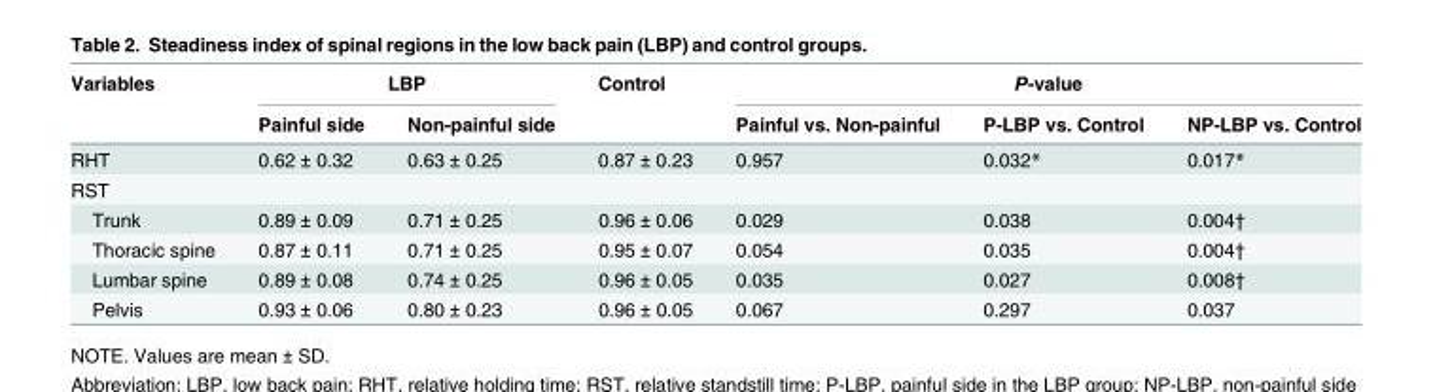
<table><thead><tr><td rowspan="2">Variables</td><td colspan="2">LBP</td><td rowspan="2">Control</td><td colspan="3">P-value</td></tr><tr><td>Painful side</td><td>Non-painful side</td><td>Painful vs. Non-painful</td><td>P-LBP vs. Control</td><td>NP-LBP vs. Control</td></tr></thead><tbody><tr><td>RHT</td><td>0.62 ± 0.32</td><td>0.63 ± 0.25</td><td>0.87 ± 0.23</td><td>0.957</td><td>0.032*</td><td>0.017*</td></tr><tr><td colspan="7">RST</td></tr><tr><td>Trunk</td><td>0.89 ± 0.09</td><td>0.71 ± 0.25</td><td>0.96 ± 0.06</td><td>0.029</td><td>0.038</td><td>0.004†</td></tr><tr><td>Thoracic spine</td><td>0.87 ± 0.11</td><td>0.71 ± 0.25</td><td>0.95 ± 0.07</td><td>0.054</td><td>0.035</td><td>0.004†</td></tr><tr><td>Lumbar spine</td><td>0.89 ± 0.08</td><td>0.74 ± 0.25</td><td>0.96 ± 0.05</td><td>0.035</td><td>0.027</td><td>0.008†</td></tr><tr><td>Pelvis</td><td>0.93 ± 0.06</td><td>0.80 ± 0.23</td><td>0.96 ± 0.05</td><td>0.067</td><td>0.297</td><td>0.037</td></tr></tbody></table>